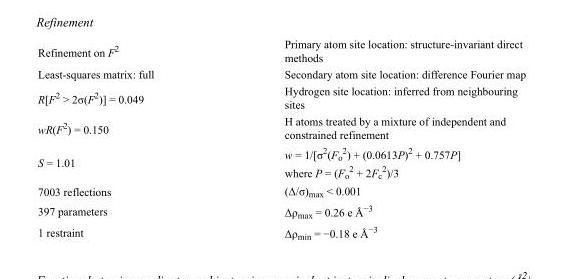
<table><tbody><tr><td>Refinement on F<sup>2</sup></td><td>Primary atom site location: structure-invariant direct methods</td></tr><tr><td>Least-squares matrix: full</td><td>Secondary atom site location: difference Fourier map</td></tr><tr><td>R[F<sup>2</sup> &gt; 2σ(F<sup>2</sup>)] = 0.049</td><td>Hydrogen site location: inferred from neighbouring sites</td></tr><tr><td>wR(F<sup>2</sup>) = 0.150</td><td>H atoms treated by a mixture of independent and constrained refinement</td></tr><tr><td>S = 1.01</td><td>w = 1/[σ<sup>2</sup>(F<sub>o</sub> <sup>2</sup>) + (0.0613P)<sup>2</sup> + 0.757P] where P = (F<sub>o</sub> <sup>2</sup> + 2F<sub>c</sub> <sup>2</sup>)/3</td></tr><tr><td>7003 reflections</td><td>(Δ/σ)<sub>max</sub> &lt; 0.001</td></tr><tr><td>397 parameters</td><td>Δρ<sub>max</sub> = 0.26 e Å<sup>−3</sup></td></tr><tr><td>1 restraint</td><td>Δρ<sub>min</sub> = −0.18 e Å<sup>−3</sup></td></tr></tbody></table>